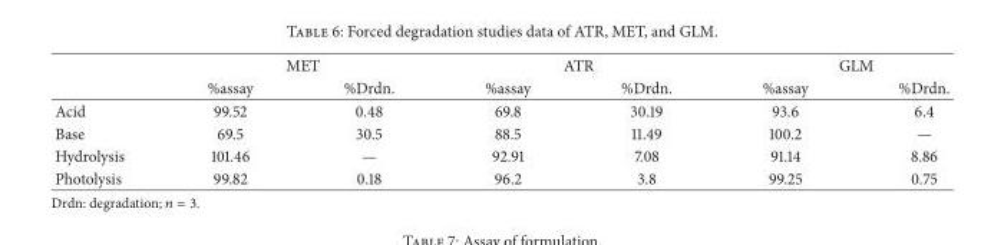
<table><thead><tr><td rowspan="2"></td><td colspan="2">MET</td><td colspan="2">ATR</td><td colspan="2">GLM</td></tr><tr><td>%assay</td><td>%Drdn.</td><td>%assay</td><td>%Drdn.</td><td>%assay</td><td>%Drdn.</td></tr></thead><tbody><tr><td>Acid</td><td>99.52</td><td>0.48</td><td>69.8</td><td>30.19</td><td>93.6</td><td>6.4</td></tr><tr><td>Base</td><td>69.5</td><td>30.5</td><td>88.5</td><td>11.49</td><td>100.2</td><td>—</td></tr><tr><td>Hydrolysis</td><td>101.46</td><td>—</td><td>92.91</td><td>7.08</td><td>91.14</td><td>8.86</td></tr><tr><td>Photolysis</td><td>99.82</td><td>0.18</td><td>96.2</td><td>3.8</td><td>99.25</td><td>0.75</td></tr></tbody></table>